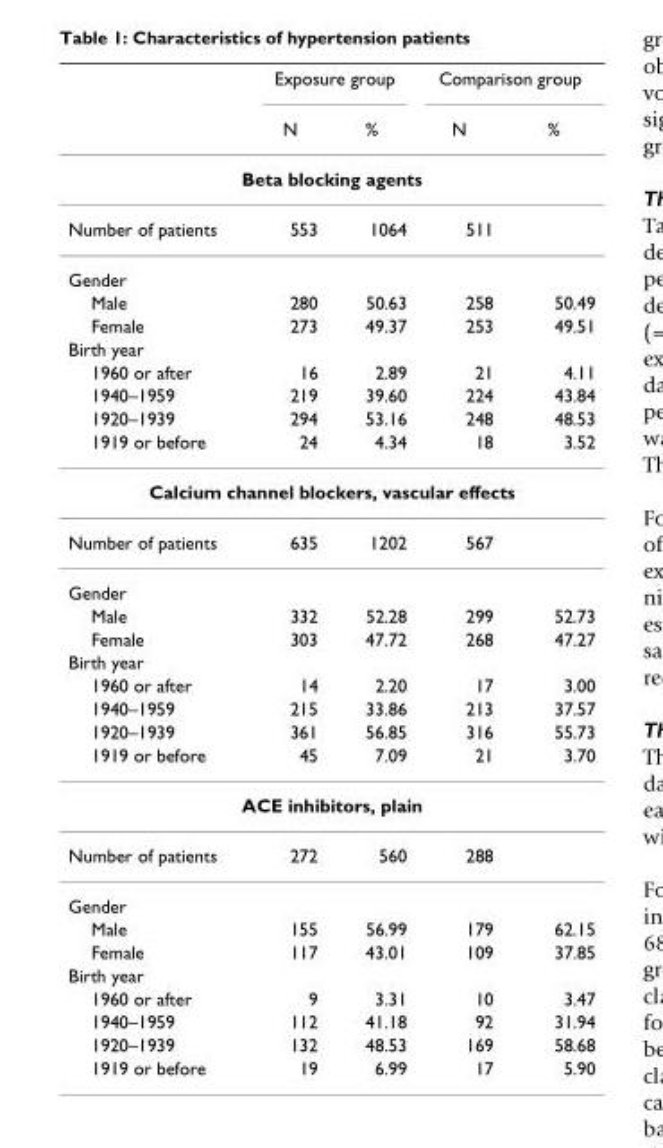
<table><thead><tr><td rowspan="2"></td><td colspan="2">Exposure group</td><td colspan="2">Comparison group</td></tr><tr><td>N</td><td>%</td><td>N</td><td>%</td></tr></thead><tbody><tr><td colspan="5">Beta blocking agents</td></tr><tr><td>Number of patients</td><td>553</td><td>1064</td><td>511</td><td></td></tr><tr><td colspan="5">Gender</td></tr><tr><td>Male</td><td>280</td><td>50.63</td><td>258</td><td>50.49</td></tr><tr><td>Female</td><td>273</td><td>49.37</td><td>253</td><td>49.51</td></tr><tr><td colspan="5">Birth year</td></tr><tr><td>1960 or after</td><td>16</td><td>2.89</td><td>21</td><td>4.11</td></tr><tr><td>1940–1959</td><td>219</td><td>39.60</td><td>224</td><td>43.84</td></tr><tr><td>1920–1939</td><td>294</td><td>53.16</td><td>248</td><td>48.53</td></tr><tr><td>1919 or before</td><td>24</td><td>4.34</td><td>18</td><td>3.52</td></tr><tr><td colspan="5">Calcium channel blockers, vascular effects</td></tr><tr><td>Number of patients</td><td>635</td><td>1202</td><td>567</td><td></td></tr><tr><td colspan="5">Gender</td></tr><tr><td>Male</td><td>332</td><td>52.28</td><td>299</td><td>52.73</td></tr><tr><td>Female</td><td>303</td><td>47.72</td><td>268</td><td>47.27</td></tr><tr><td colspan="5">Birth year</td></tr><tr><td>1960 or after</td><td>14</td><td>2.20</td><td>17</td><td>3.00</td></tr><tr><td>1940–1959</td><td>215</td><td>33.86</td><td>213</td><td>37.57</td></tr><tr><td>1920–1939</td><td>361</td><td>56.85</td><td>316</td><td>55.73</td></tr><tr><td>1919 or before</td><td>45</td><td>7.09</td><td>21</td><td>3.70</td></tr><tr><td colspan="5">ACE inhibitors, plain</td></tr><tr><td>Number of patients</td><td>272</td><td>560</td><td>288</td><td></td></tr><tr><td colspan="5">Gender</td></tr><tr><td>Male</td><td>155</td><td>56.99</td><td>179</td><td>62.15</td></tr><tr><td>Female</td><td>117</td><td>43.01</td><td>109</td><td>37.85</td></tr><tr><td colspan="5">Birth year</td></tr><tr><td>1960 or after</td><td>9</td><td>3.31</td><td>10</td><td>3.47</td></tr><tr><td>1940–1959</td><td>112</td><td>41.18</td><td>92</td><td>31.94</td></tr><tr><td>1920–1939</td><td>132</td><td>48.53</td><td>169</td><td>58.68</td></tr><tr><td>1919 or before</td><td>19</td><td>6.99</td><td>17</td><td>5.90</td></tr></tbody></table>